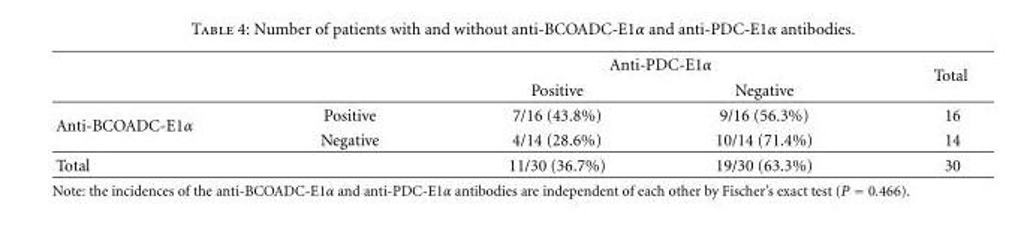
<table><thead><tr><td rowspan="2"></td><td rowspan="2"></td><td colspan="2">Anti-PDC-E1α</td><td rowspan="2">Total</td></tr><tr><td>Positive</td><td>Negative</td></tr></thead><tbody><tr><td rowspan="2">Anti-BCOADC-E1α</td><td>Positive</td><td>7/16 (43.8%)</td><td>9/16 (56.3%)</td><td>16</td></tr><tr><td>Negative</td><td>4/14 (28.6%)</td><td>10/14 (71.4%)</td><td>14</td></tr><tr><td>Total</td><td></td><td>11/30 (36.7%)</td><td>19/30 (63.3%)</td><td>30</td></tr></tbody></table>